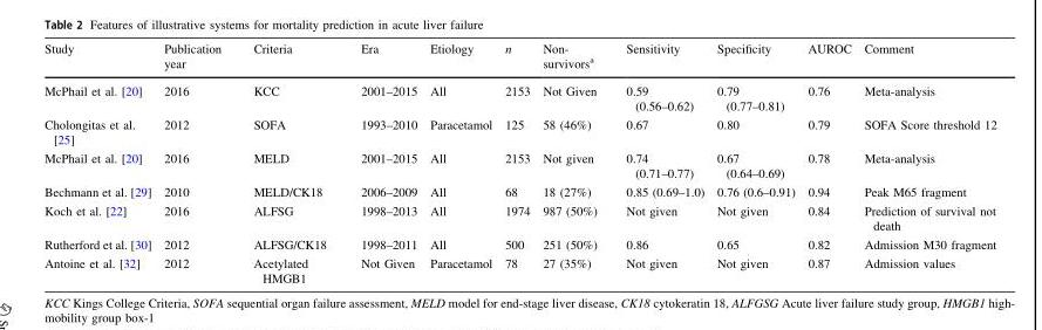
<table><thead><tr><td>Study</td><td>Publication year</td><td>Criteria</td><td>Era</td><td>Etiology</td><td>n</td><td>Non- survivors<sup>a</sup></td><td>Sensitivity</td><td>Specificity</td><td>AUROC</td><td>Comment</td></tr></thead><tbody><tr><td>McPhail et al. [20]</td><td>2016</td><td>KCC</td><td>2001–2015</td><td>All</td><td>2153</td><td>Not Given</td><td>0.59 (0.56–0.62)</td><td>0.79 (0.77–0.81)</td><td>0.76</td><td>Meta-analysis</td></tr><tr><td>Cholongitas et al. [25]</td><td>2012</td><td>SOFA</td><td>1993–2010</td><td>Paracetamol</td><td>125</td><td>58 (46%)</td><td>0.67</td><td>0.80</td><td>0.79</td><td>SOFA Score threshold 12</td></tr><tr><td>McPhail et al. [20]</td><td>2016</td><td>MELD</td><td>2001–2015</td><td>All</td><td>2153</td><td>Not given</td><td>0.74 (0.71–0.77)</td><td>0.67 (0.64–0.69)</td><td>0.78</td><td>Meta-analysis</td></tr><tr><td>Bechmann et al. [29]</td><td>2010</td><td>MELD/CK18</td><td>2006–2009</td><td>All</td><td>68</td><td>18 (27%)</td><td>0.85 (0.69–1.0)</td><td>0.76 (0.6–0.91)</td><td>0.94</td><td>Peak M65 fragment</td></tr><tr><td>Koch et al. [22]</td><td>2016</td><td>ALFSG</td><td>1998–2013</td><td>All</td><td>1974</td><td>987 (50%)</td><td>Not given</td><td>Not given</td><td>0.84</td><td>Prediction of survival not death</td></tr><tr><td>Rutherford et al. [30]</td><td>2012</td><td>ALFSG/CK18</td><td>1998–2011</td><td>All</td><td>500</td><td>251 (50%)</td><td>0.86</td><td>0.65</td><td>0.82</td><td>Admission M30 fragment</td></tr><tr><td>Antoine et al. [32]</td><td>2012</td><td>Acetylated HMGB1</td><td>Not Given</td><td>Paracetamol</td><td>78</td><td>27 (35%)</td><td>Not given</td><td>Not given</td><td>0.87</td><td>Admission values</td></tr></tbody></table>